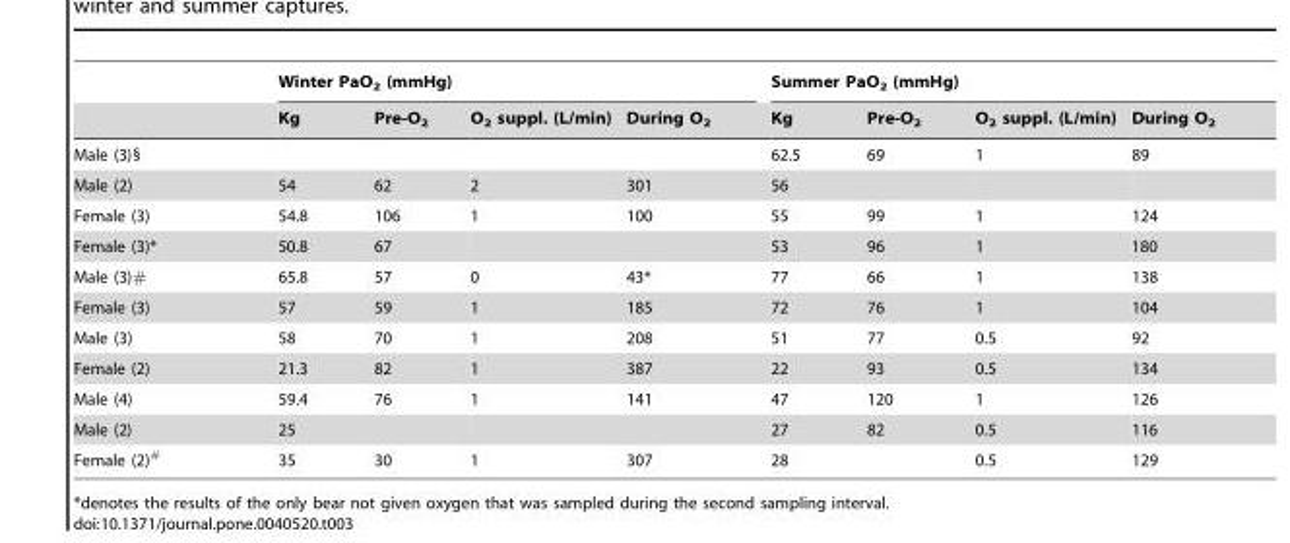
<table><thead><tr><td rowspan="2"></td><td colspan="4">Winter PaO<sub>2</sub> (mmHg)</td><td colspan="4">Summer PaO<sub>2</sub> (mmHg)</td></tr><tr><td>Kg</td><td>Pre-O<sub>2</sub></td><td>O<sub>2</sub> suppl. (L/min)</td><td>During O<sub>2</sub></td><td>Kg</td><td>Pre-O<sub>2</sub></td><td>O<sub>2</sub> suppl. (L/min)</td><td>During O<sub>2</sub></td></tr></thead><tbody><tr><td>Male (3)§</td><td></td><td></td><td></td><td></td><td>62.5</td><td>69</td><td>1</td><td>89</td></tr><tr><td>Male (2)</td><td>54</td><td>62</td><td>2</td><td>301</td><td>56</td><td></td><td></td><td></td></tr><tr><td>Female (3)</td><td>54.8</td><td>106</td><td>1</td><td>100</td><td>55</td><td>99</td><td>1</td><td>124</td></tr><tr><td>Female (3)*</td><td>50.8</td><td>67</td><td></td><td></td><td>53</td><td>96</td><td>1</td><td>180</td></tr><tr><td>Male (3)#</td><td>65.8</td><td>57</td><td>0</td><td>43*</td><td>77</td><td>66</td><td>1</td><td>138</td></tr><tr><td>Female (3)</td><td>57</td><td>59</td><td>1</td><td>185</td><td>72</td><td>76</td><td>1</td><td>104</td></tr><tr><td>Male (3)</td><td>58</td><td>70</td><td>1</td><td>208</td><td>51</td><td>77</td><td>0.5</td><td>92</td></tr><tr><td>Female (2)</td><td>21.3</td><td>82</td><td>1</td><td>387</td><td>22</td><td>93</td><td>0.5</td><td>134</td></tr><tr><td>Male (4)</td><td>59.4</td><td>76</td><td>1</td><td>141</td><td>47</td><td>120</td><td>1</td><td>126</td></tr><tr><td>Male (2)</td><td>25</td><td></td><td></td><td></td><td>27</td><td>82</td><td>0.5</td><td>116</td></tr><tr><td>Female (2)<sup>#</sup></td><td>35</td><td>30</td><td>1</td><td>307</td><td>28</td><td></td><td>0.5</td><td>129</td></tr></tbody></table>